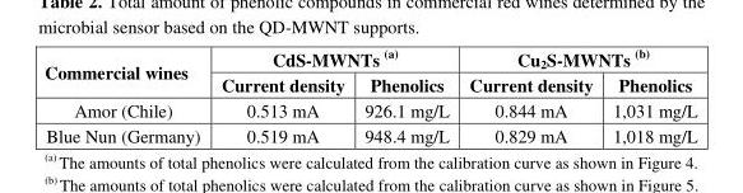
<table><thead><tr><td rowspan="2">Commercial wines</td><td colspan="2">CdS-MWNTs <sup>(a)</sup></td><td colspan="2">Cu<sub>2</sub>S-MWNTs <sup>(b)</sup></td></tr><tr><td>Current density</td><td>Phenolics</td><td>Current density</td><td>Phenolics</td></tr></thead><tbody><tr><td>Amor (Chile)</td><td>0.513 mA</td><td>926.1 mg/L</td><td>0.844 mA</td><td>1,031 mg/L</td></tr><tr><td>Blue Nun (Germany)</td><td>0.519 mA</td><td>948.4 mg/L</td><td>0.829 mA</td><td>1,018 mg/L</td></tr></tbody></table>